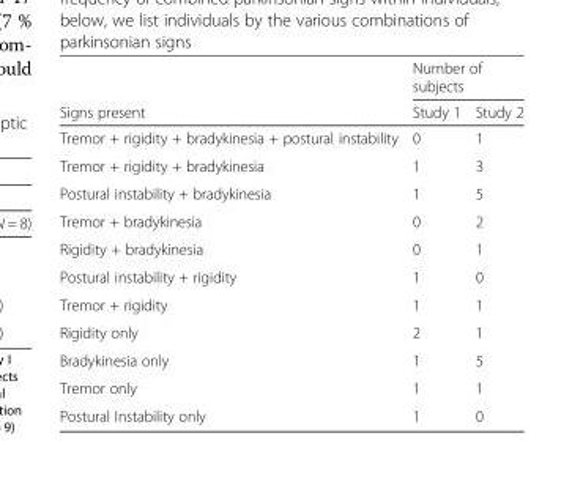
<table><thead><tr><td rowspan="2">Signs present</td><td colspan="2">Number of subjects</td></tr><tr><td>Study 1</td><td>Study 2</td></tr></thead><tbody><tr><td>Tremor + rigidity + bradykinesia + postural instability</td><td>0</td><td>1</td></tr><tr><td>Tremor + rigidity + bradykinesia</td><td>1</td><td>3</td></tr><tr><td>Postural instability + bradykinesia</td><td>1</td><td>5</td></tr><tr><td>Tremor + bradykinesia</td><td>0</td><td>2</td></tr><tr><td>Rigidity + bradykinesia</td><td>0</td><td>1</td></tr><tr><td>Postural instability + rigidity</td><td>1</td><td>0</td></tr><tr><td>Tremor + rigidity</td><td>1</td><td>1</td></tr><tr><td>Rigidity only</td><td>2</td><td>1</td></tr><tr><td>Bradykinesia only</td><td>1</td><td>5</td></tr><tr><td>Tremor only</td><td>1</td><td>1</td></tr><tr><td>Postural Instability only</td><td>1</td><td>0</td></tr></tbody></table>